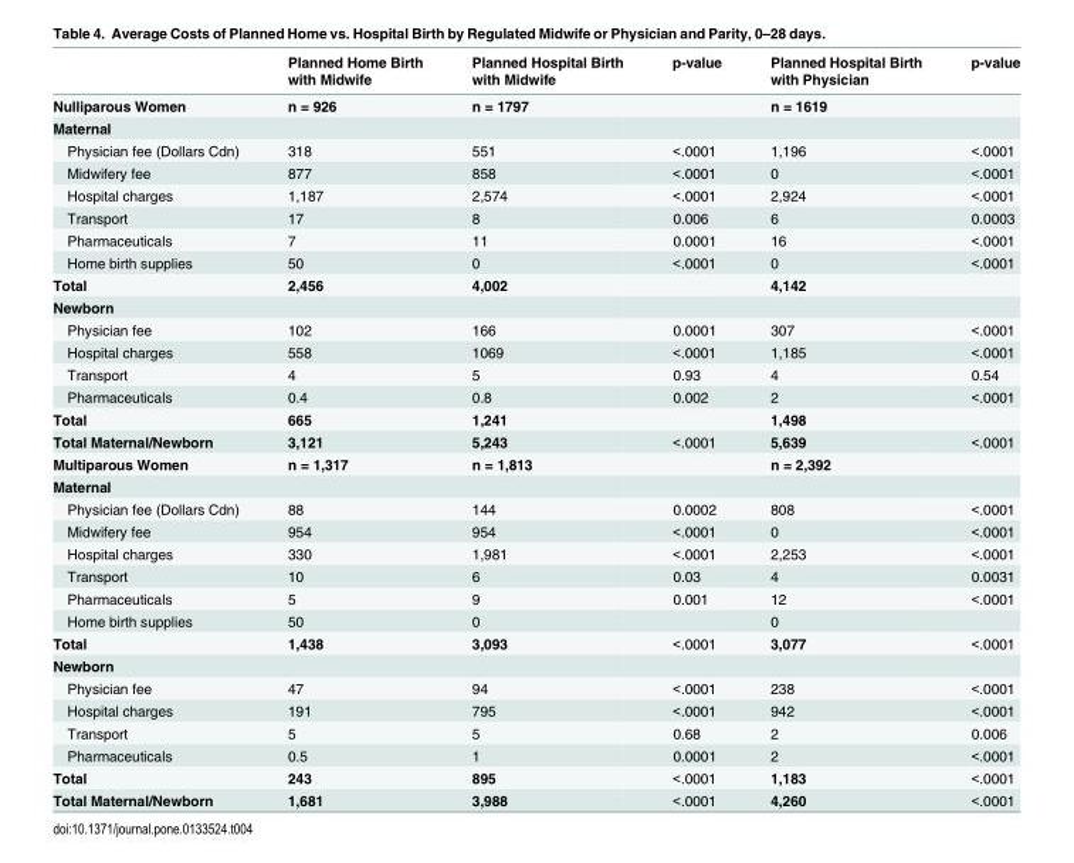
<table><thead><tr><td></td><td>Planned Home Birth with Midwife</td><td>Planned Hospital Birth with Midwife</td><td>p-value</td><td>Planned Hospital Birth with Physician</td><td>p-value</td></tr></thead><tbody><tr><td>Nulliparous Women</td><td>n = 926</td><td>n = 1797</td><td></td><td>n = 1619</td><td></td></tr><tr><td colspan="6">Maternal</td></tr><tr><td>Physician fee (Dollars Cdn)</td><td>318</td><td>551</td><td>&lt;.0001</td><td>1,196</td><td>&lt;.0001</td></tr><tr><td>Midwifery fee</td><td>877</td><td>858</td><td>&lt;.0001</td><td>0</td><td>&lt;.0001</td></tr><tr><td>Hospital charges</td><td>1,187</td><td>2,574</td><td>&lt;.0001</td><td>2,924</td><td>&lt;.0001</td></tr><tr><td>Transport</td><td>17</td><td>8</td><td>0.006</td><td>6</td><td>0.0003</td></tr><tr><td>Pharmaceuticals</td><td>7</td><td>11</td><td>0.0001</td><td>16</td><td>&lt;.0001</td></tr><tr><td>Home birth supplies</td><td>50</td><td>0</td><td>&lt;.0001</td><td>0</td><td>&lt;.0001</td></tr><tr><td>Total</td><td>2,456</td><td>4,002</td><td></td><td>4,142</td><td></td></tr><tr><td colspan="6">Newborn</td></tr><tr><td>Physician fee</td><td>102</td><td>166</td><td>0.0001</td><td>307</td><td>&lt;.0001</td></tr><tr><td>Hospital charges</td><td>558</td><td>1069</td><td>&lt;.0001</td><td>1,185</td><td>&lt;.0001</td></tr><tr><td>Transport</td><td>4</td><td>5</td><td>0.93</td><td>4</td><td>0.54</td></tr><tr><td>Pharmaceuticals</td><td>0.4</td><td>0.8</td><td>0.002</td><td>2</td><td>&lt;.0001</td></tr><tr><td>Total</td><td>665</td><td>1,241</td><td></td><td>1,498</td><td></td></tr><tr><td>Total Maternal/Newborn</td><td>3,121</td><td>5,243</td><td>&lt;.0001</td><td>5,639</td><td>&lt;.0001</td></tr><tr><td>Multiparous Women</td><td>n = 1,317</td><td>n = 1,813</td><td></td><td>n = 2,392</td><td></td></tr><tr><td colspan="6">Maternal</td></tr><tr><td>Physician fee (Dollars Cdn)</td><td>88</td><td>144</td><td>0.0002</td><td>808</td><td>&lt;.0001</td></tr><tr><td>Midwifery fee</td><td>954</td><td>954</td><td>&lt;.0001</td><td>0</td><td>&lt;.0001</td></tr><tr><td>Hospital charges</td><td>330</td><td>1,981</td><td>&lt;.0001</td><td>2,253</td><td>&lt;.0001</td></tr><tr><td>Transport</td><td>10</td><td>6</td><td>0.03</td><td>4</td><td>0.0031</td></tr><tr><td>Pharmaceuticals</td><td>5</td><td>9</td><td>0.001</td><td>12</td><td>&lt;.0001</td></tr><tr><td>Home birth supplies</td><td>50</td><td>0</td><td></td><td>0</td><td></td></tr><tr><td>Total</td><td>1,438</td><td>3,093</td><td>&lt;.0001</td><td>3,077</td><td>&lt;.0001</td></tr><tr><td colspan="6">Newborn</td></tr><tr><td>Physician fee</td><td>47</td><td>94</td><td>&lt;.0001</td><td>238</td><td>&lt;.0001</td></tr><tr><td>Hospital charges</td><td>191</td><td>795</td><td>&lt;.0001</td><td>942</td><td>&lt;.0001</td></tr><tr><td>Transport</td><td>5</td><td>5</td><td>0.68</td><td>2</td><td>0.006</td></tr><tr><td>Pharmaceuticals</td><td>0.5</td><td>1</td><td>0.0001</td><td>2</td><td>&lt;.0001</td></tr><tr><td>Total</td><td>243</td><td>895</td><td>&lt;.0001</td><td>1,183</td><td>&lt;.0001</td></tr><tr><td>Total Maternal/Newborn</td><td>1,681</td><td>3,988</td><td>&lt;.0001</td><td>4,260</td><td>&lt;.0001</td></tr></tbody></table>